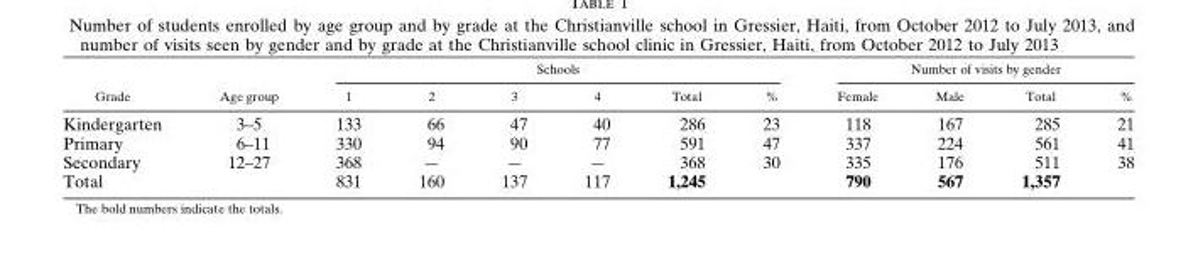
<table><thead><tr><td rowspan="2">Grade</td><td rowspan="2">Age group</td><td colspan="6">Schools</td><td colspan="4">Number of visits by gender</td></tr><tr><td>1</td><td>2</td><td>3</td><td>4</td><td>Total</td><td>%</td><td>Female</td><td>Male</td><td>Total</td><td>%</td></tr></thead><tbody><tr><td>Kindergarten</td><td>3–5</td><td>133</td><td>66</td><td>47</td><td>40</td><td>286</td><td>23</td><td>118</td><td>167</td><td>285</td><td>21</td></tr><tr><td>Primary</td><td>6–11</td><td>330</td><td>94</td><td>90</td><td>77</td><td>591</td><td>47</td><td>337</td><td>224</td><td>561</td><td>41</td></tr><tr><td>Secondary</td><td>12–27</td><td>368</td><td>—</td><td>—</td><td>—</td><td>368</td><td>30</td><td>335</td><td>176</td><td>511</td><td>38</td></tr><tr><td>Total</td><td></td><td>831</td><td>160</td><td>137</td><td>117</td><td>1,245</td><td></td><td>790</td><td>567</td><td>1,357</td><td></td></tr></tbody></table>